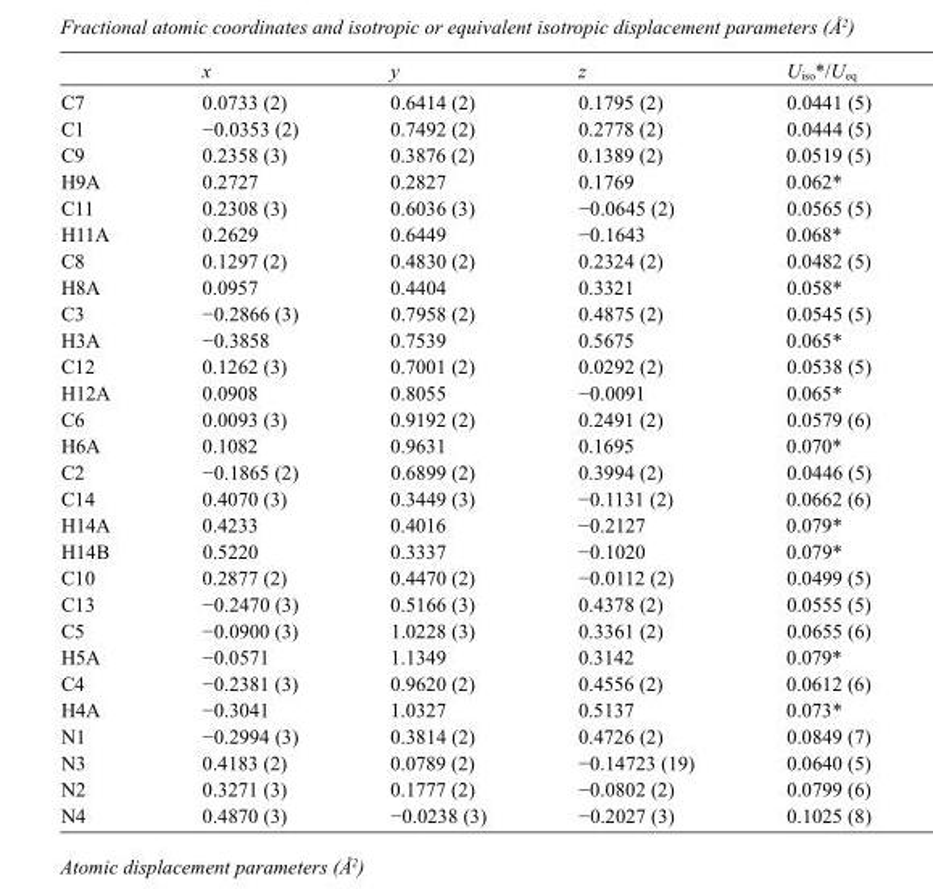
<table><thead><tr><td></td><td>x</td><td>y</td><td>z</td><td>U<sub>iso</sub>*/U<sub>eq</sub></td></tr></thead><tbody><tr><td>C7</td><td>0.0733 (2)</td><td>0.6414 (2)</td><td>0.1795 (2)</td><td>0.0441 (5)</td></tr><tr><td>C1</td><td>−0.0353 (2)</td><td>0.7492 (2)</td><td>0.2778 (2)</td><td>0.0444 (5)</td></tr><tr><td>C9</td><td>0.2358 (3)</td><td>0.3876 (2)</td><td>0.1389 (2)</td><td>0.0519 (5)</td></tr><tr><td>H9A</td><td>0.2727</td><td>0.2827</td><td>0.1769</td><td>0.062*</td></tr><tr><td>C11</td><td>0.2308 (3)</td><td>0.6036 (3)</td><td>−0.0645 (2)</td><td>0.0565 (5)</td></tr><tr><td>H11A</td><td>0.2629</td><td>0.6449</td><td>−0.1643</td><td>0.068*</td></tr><tr><td>C8</td><td>0.1297 (2)</td><td>0.4830 (2)</td><td>0.2324 (2)</td><td>0.0482 (5)</td></tr><tr><td>H8A</td><td>0.0957</td><td>0.4404</td><td>0.3321</td><td>0.058*</td></tr><tr><td>C3</td><td>−0.2866 (3)</td><td>0.7958 (2)</td><td>0.4875 (2)</td><td>0.0545 (5)</td></tr><tr><td>H3A</td><td>−0.3858</td><td>0.7539</td><td>0.5675</td><td>0.065*</td></tr><tr><td>C12</td><td>0.1262 (3)</td><td>0.7001 (2)</td><td>0.0292 (2)</td><td>0.0538 (5)</td></tr><tr><td>H12A</td><td>0.0908</td><td>0.8055</td><td>−0.0091</td><td>0.065*</td></tr><tr><td>C6</td><td>0.0093 (3)</td><td>0.9192 (2)</td><td>0.2491 (2)</td><td>0.0579 (6)</td></tr><tr><td>H6A</td><td>0.1082</td><td>0.9631</td><td>0.1695</td><td>0.070*</td></tr><tr><td>C2</td><td>−0.1865 (2)</td><td>0.6899 (2)</td><td>0.3994 (2)</td><td>0.0446 (5)</td></tr><tr><td>C14</td><td>0.4070 (3)</td><td>0.3449 (3)</td><td>−0.1131 (2)</td><td>0.0662 (6)</td></tr><tr><td>H14A</td><td>0.4233</td><td>0.4016</td><td>−0.2127</td><td>0.079*</td></tr><tr><td>H14B</td><td>0.5220</td><td>0.3337</td><td>−0.1020</td><td>0.079*</td></tr><tr><td>C10</td><td>0.2877 (2)</td><td>0.4470 (2)</td><td>−0.0112 (2)</td><td>0.0499 (5)</td></tr><tr><td>C13</td><td>−0.2470 (3)</td><td>0.5166 (3)</td><td>0.4378 (2)</td><td>0.0555 (5)</td></tr><tr><td>C5</td><td>−0.0900 (3)</td><td>1.0228 (3)</td><td>0.3361 (2)</td><td>0.0655 (6)</td></tr><tr><td>H5A</td><td>−0.0571</td><td>1.1349</td><td>0.3142</td><td>0.079*</td></tr><tr><td>C4</td><td>−0.2381 (3)</td><td>0.9620 (2)</td><td>0.4556 (2)</td><td>0.0612 (6)</td></tr><tr><td>H4A</td><td>−0.3041</td><td>1.0327</td><td>0.5137</td><td>0.073*</td></tr><tr><td>N1</td><td>−0.2994 (3)</td><td>0.3814 (2)</td><td>0.4726 (2)</td><td>0.0849 (7)</td></tr><tr><td>N3</td><td>0.4183 (2)</td><td>0.0789 (2)</td><td>−0.14723 (19)</td><td>0.0640 (5)</td></tr><tr><td>N2</td><td>0.3271 (3)</td><td>0.1777 (2)</td><td>−0.0802 (2)</td><td>0.0799 (6)</td></tr><tr><td>N4</td><td>0.4870 (3)</td><td>−0.0238 (3)</td><td>−0.2027 (3)</td><td>0.1025 (8)</td></tr></tbody></table>